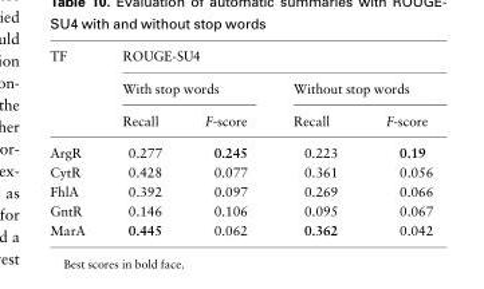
<table><thead><tr><td rowspan="3">TF</td><td colspan="4">ROUGE-SU4</td></tr><tr><td colspan="2">With stop words</td><td colspan="2">Without stop words</td></tr><tr><td>Recall</td><td>F-score</td><td>Recall</td><td>F-score</td></tr></thead><tbody><tr><td>ArgR</td><td>0.277</td><td>0.245</td><td>0.223</td><td>0.19</td></tr><tr><td>CytR</td><td>0.428</td><td>0.077</td><td>0.361</td><td>0.056</td></tr><tr><td>FhlA</td><td>0.392</td><td>0.097</td><td>0.269</td><td>0.066</td></tr><tr><td>GntR</td><td>0.146</td><td>0.106</td><td>0.095</td><td>0.067</td></tr><tr><td>MarA</td><td>0.445</td><td>0.062</td><td>0.362</td><td>0.042</td></tr></tbody></table>